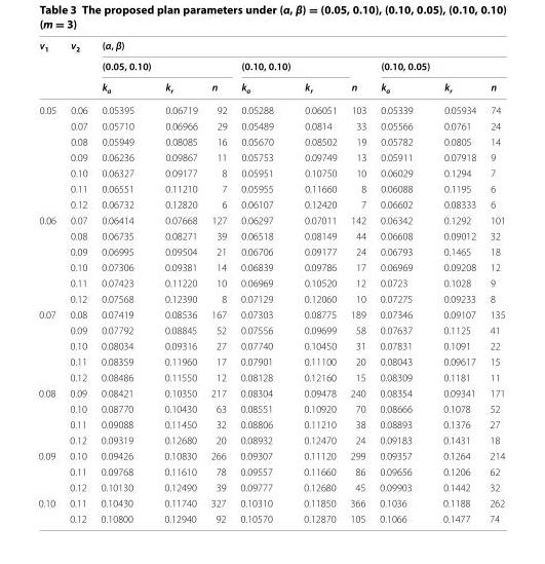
<table><thead><tr><td rowspan="3">v<sub>1</sub></td><td rowspan="3">v<sub>2</sub></td><td colspan="9">(α, β)</td></tr><tr><td colspan="3">(0.05, 0.10)</td><td colspan="3">(0.10, 0.10)</td><td colspan="3">(0.10, 0.05)</td></tr><tr><td>k<sub>a</sub></td><td>k<sub>r</sub></td><td>n</td><td>k<sub>a</sub></td><td>k<sub>r</sub></td><td>n</td><td>k<sub>a</sub></td><td>k<sub>r</sub></td><td>n</td></tr></thead><tbody><tr><td rowspan="7">0.05</td><td>0.06</td><td>0.05395</td><td>0.06719</td><td>92</td><td>0.05288</td><td>0.06051</td><td>103</td><td>0.05339</td><td>0.05934</td><td>74</td></tr><tr><td>0.07</td><td>0.05710</td><td>0.06966</td><td>29</td><td>0.05489</td><td>0.0814</td><td>33</td><td>0.05566</td><td>0.0761</td><td>24</td></tr><tr><td>0.08</td><td>0.05949</td><td>0.08085</td><td>16</td><td>0.05670</td><td>0.08502</td><td>19</td><td>0.05782</td><td>0.0805</td><td>14</td></tr><tr><td>0.09</td><td>0.06236</td><td>0.09867</td><td>11</td><td>0.05753</td><td>0.09749</td><td>13</td><td>0.05911</td><td>0.07918</td><td>9</td></tr><tr><td>0.10</td><td>0.06327</td><td>0.09177</td><td>8</td><td>0.05951</td><td>0.10750</td><td>10</td><td>0.06029</td><td>0.1294</td><td>7</td></tr><tr><td>0.11</td><td>0.06551</td><td>0.11210</td><td>7</td><td>0.05955</td><td>0.11660</td><td>8</td><td>0.06088</td><td>0.1195</td><td>6</td></tr><tr><td>0.12</td><td>0.06732</td><td>0.12820</td><td>6</td><td>0.06107</td><td>0.12420</td><td>7</td><td>0.06602</td><td>0.08333</td><td>6</td></tr><tr><td rowspan="6">0.06</td><td>0.07</td><td>0.06414</td><td>0.07668</td><td>127</td><td>0.06297</td><td>0.07011</td><td>142</td><td>0.06342</td><td>0.1292</td><td>101</td></tr><tr><td>0.08</td><td>0.06735</td><td>0.08271</td><td>39</td><td>0.06518</td><td>0.08149</td><td>44</td><td>0.06608</td><td>0.09012</td><td>32</td></tr><tr><td>0.09</td><td>0.06995</td><td>0.09504</td><td>21</td><td>0.06706</td><td>0.09177</td><td>24</td><td>0.06793</td><td>0.1465</td><td>18</td></tr><tr><td>0.10</td><td>0.07306</td><td>0.09381</td><td>14</td><td>0.06839</td><td>0.09786</td><td>17</td><td>0.06969</td><td>0.09208</td><td>12</td></tr><tr><td>0.11</td><td>0.07423</td><td>0.11220</td><td>10</td><td>0.06969</td><td>0.10520</td><td>12</td><td>0.0723</td><td>0.1028</td><td>9</td></tr><tr><td>0.12</td><td>0.07568</td><td>0.12390</td><td>8</td><td>0.07129</td><td>0.12060</td><td>10</td><td>0.07275</td><td>0.09233</td><td>8</td></tr><tr><td rowspan="5">0.07</td><td>0.08</td><td>0.07419</td><td>0.08536</td><td>167</td><td>0.07303</td><td>0.08775</td><td>189</td><td>0.07346</td><td>0.09107</td><td>135</td></tr><tr><td>0.09</td><td>0.07792</td><td>0.08845</td><td>52</td><td>0.07556</td><td>0.09699</td><td>58</td><td>0.07637</td><td>0.1125</td><td>41</td></tr><tr><td>0.10</td><td>0.08034</td><td>0.09316</td><td>27</td><td>0.07740</td><td>0.10450</td><td>31</td><td>0.07831</td><td>0.1091</td><td>22</td></tr><tr><td>0.11</td><td>0.08359</td><td>0.11960</td><td>17</td><td>0.07901</td><td>0.11100</td><td>20</td><td>0.08043</td><td>0.09617</td><td>15</td></tr><tr><td>0.12</td><td>0.08486</td><td>0.11550</td><td>12</td><td>0.08128</td><td>0.12160</td><td>15</td><td>0.08309</td><td>0.1181</td><td>11</td></tr><tr><td rowspan="4">0.08</td><td>0.09</td><td>0.08421</td><td>0.10350</td><td>217</td><td>0.08304</td><td>0.09478</td><td>240</td><td>0.08354</td><td>0.09341</td><td>171</td></tr><tr><td>0.10</td><td>0.08770</td><td>0.10430</td><td>63</td><td>0.08551</td><td>0.10920</td><td>70</td><td>0.08666</td><td>0.1078</td><td>52</td></tr><tr><td>0.11</td><td>0.09088</td><td>0.11450</td><td>32</td><td>0.08806</td><td>0.11210</td><td>38</td><td>0.08893</td><td>0.1376</td><td>27</td></tr><tr><td>0.12</td><td>0.09319</td><td>0.12680</td><td>20</td><td>0.08932</td><td>0.12470</td><td>24</td><td>0.09183</td><td>0.1431</td><td>18</td></tr><tr><td rowspan="3">0.09</td><td>0.10</td><td>0.09426</td><td>0.10830</td><td>266</td><td>0.09307</td><td>0.11120</td><td>299</td><td>0.09357</td><td>0.1264</td><td>214</td></tr><tr><td>0.11</td><td>0.09768</td><td>0.11610</td><td>78</td><td>0.09557</td><td>0.11660</td><td>86</td><td>0.09656</td><td>0.1206</td><td>62</td></tr><tr><td>0.12</td><td>0.10130</td><td>0.12490</td><td>39</td><td>0.09777</td><td>0.12680</td><td>45</td><td>0.09903</td><td>0.1442</td><td>32</td></tr><tr><td rowspan="2">0.10</td><td>0.11</td><td>0.10430</td><td>0.11740</td><td>327</td><td>0.10310</td><td>0.11850</td><td>366</td><td>0.1036</td><td>0.1188</td><td>262</td></tr><tr><td>0.12</td><td>0.10800</td><td>0.12940</td><td>92</td><td>0.10570</td><td>0.12870</td><td>105</td><td>0.1066</td><td>0.1477</td><td>74</td></tr></tbody></table>